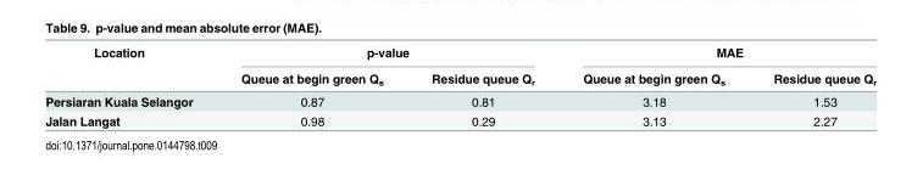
<table><thead><tr><td rowspan="2">Location</td><td colspan="2">p-value</td><td colspan="2">MAE</td></tr><tr><td>Queue at begin green Q<sub>s</sub></td><td>Residue queue Q<sub>r</sub></td><td>Queue at begin green Q<sub>s</sub></td><td>Residue queue Q<sub>r</sub></td></tr></thead><tbody><tr><td>Persiaran Kuala Selangor</td><td>0.87</td><td>0.81</td><td>3.18</td><td>1.53</td></tr><tr><td>Jalan Langat</td><td>0.98</td><td>0.29</td><td>3.13</td><td>2.27</td></tr></tbody></table>